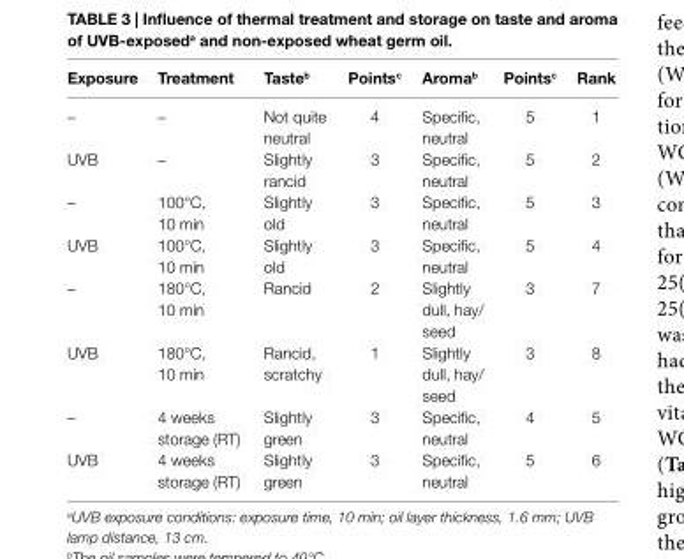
<table><thead><tr><td>exposure</td><td>Treatment</td><td>Taste<sup>b</sup></td><td>Points<sup>c</sup></td><td>aroma<sup>b</sup></td><td>Points<sup>c</sup></td><td>rank</td></tr></thead><tbody><tr><td>–</td><td>–</td><td>Not quite neutral</td><td>4</td><td>Specific, neutral</td><td>5</td><td>1</td></tr><tr><td>UVB</td><td>–</td><td>Slightly rancid</td><td>3</td><td>Specific, neutral</td><td>5</td><td>2</td></tr><tr><td>–</td><td>100°C, 10 min</td><td>Slightly old</td><td>3</td><td>Specific, neutral</td><td>5</td><td>3</td></tr><tr><td>UVB</td><td>100°C, 10 min</td><td>Slightly old</td><td>3</td><td>Specific, neutral</td><td>5</td><td>4</td></tr><tr><td>–</td><td>180°C, 10 min</td><td>Rancid</td><td>2</td><td>Slightly dull, hay/ seed</td><td>3</td><td>7</td></tr><tr><td>UVB</td><td>180°C, 10 min</td><td>Rancid, scratchy</td><td>1</td><td>Slightly dull, hay/ seed</td><td>3</td><td>8</td></tr><tr><td>–</td><td>4 weeks storage (RT)</td><td>Slightly green</td><td>3</td><td>Specific, neutral</td><td>4</td><td>5</td></tr><tr><td>UVB</td><td>4 weeks storage (RT)</td><td>Slightly green</td><td>3</td><td>Specific, neutral</td><td>5</td><td>6</td></tr></tbody></table>